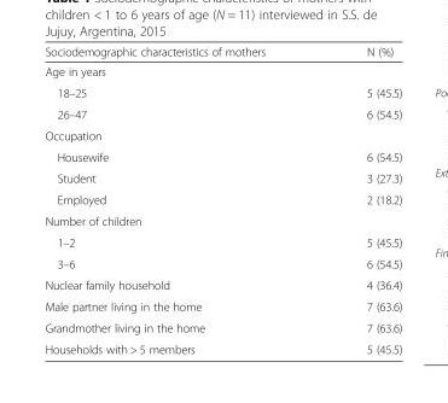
<table><thead><tr><td>Sociodemographic characteristics of mothers</td><td>N (%)</td></tr></thead><tbody><tr><td colspan="2">Age in years</td></tr><tr><td>18–25</td><td>5 (45.5)</td></tr><tr><td>26–47</td><td>6 (54.5)</td></tr><tr><td colspan="2">Occupation</td></tr><tr><td>Housewife</td><td>6 (54.5)</td></tr><tr><td>Student</td><td>3 (27.3)</td></tr><tr><td>Employed</td><td>2 (18.2)</td></tr><tr><td colspan="2">Number of children</td></tr><tr><td>1–2</td><td>5 (45.5)</td></tr><tr><td>3–6</td><td>6 (54.5)</td></tr><tr><td>Nuclear family household</td><td>4 (36.4)</td></tr><tr><td>Male partner living in the home</td><td>7 (63.6)</td></tr><tr><td>Grandmother living in the home</td><td>7 (63.6)</td></tr><tr><td>Households with &gt; 5 members</td><td>5 (45.5)</td></tr></tbody></table>